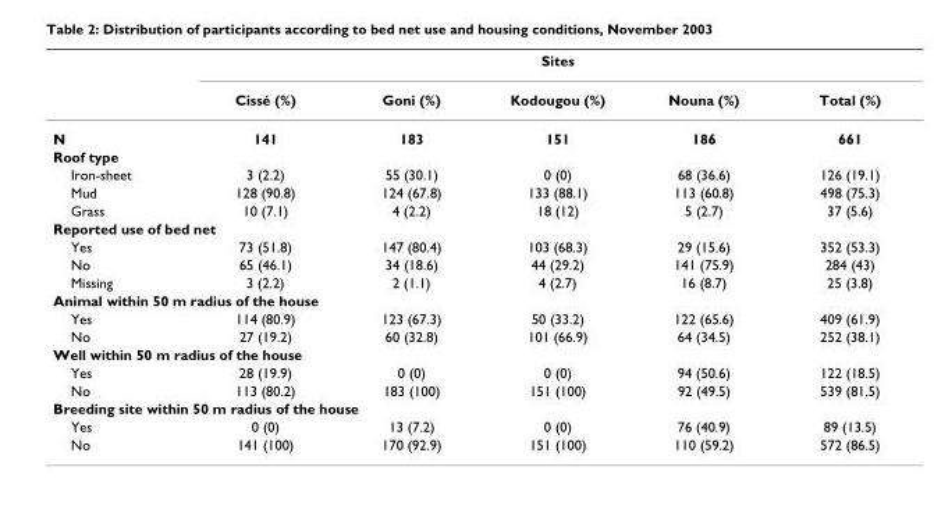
<table><thead><tr><td rowspan="2"></td><td colspan="5">Sites</td></tr><tr><td>Cissé (%)</td><td>Goni (%)</td><td>Kodougou (%)</td><td>Nouna (%)</td><td>Total (%)</td></tr></thead><tbody><tr><td>N</td><td>141</td><td>183</td><td>151</td><td>186</td><td>661</td></tr><tr><td colspan="6">Roof type</td></tr><tr><td>Iron-sheet</td><td>3 (2.2)</td><td>55 (30.1)</td><td>0 (0)</td><td>68 (36.6)</td><td>126 (19.1)</td></tr><tr><td>Mud</td><td>128 (90.8)</td><td>124 (67.8)</td><td>133 (88.1)</td><td>113 (60.8)</td><td>498 (75.3)</td></tr><tr><td>Grass</td><td>10 (7.1)</td><td>4 (2.2)</td><td>18 (12)</td><td>5 (2.7)</td><td>37 (5.6)</td></tr><tr><td colspan="6">Reported use of bed net</td></tr><tr><td>Yes</td><td>73 (51.8)</td><td>147 (80.4)</td><td>103 (68.3)</td><td>29 (15.6)</td><td>352 (53.3)</td></tr><tr><td>No</td><td>65 (46.1)</td><td>34 (18.6)</td><td>44 (29.2)</td><td>141 (75.9)</td><td>284 (43)</td></tr><tr><td>Missing</td><td>3 (2.2)</td><td>2 (1.1)</td><td>4 (2.7)</td><td>16 (8.7)</td><td>25 (3.8)</td></tr><tr><td colspan="6">Animal within 50 m radius of the house</td></tr><tr><td>Yes</td><td>114 (80.9)</td><td>123 (67.3)</td><td>50 (33.2)</td><td>122 (65.6)</td><td>409 (61.9)</td></tr><tr><td>No</td><td>27 (19.2)</td><td>60 (32.8)</td><td>101 (66.9)</td><td>64 (34.5)</td><td>252 (38.1)</td></tr><tr><td colspan="6">Well within 50 m radius of the house</td></tr><tr><td>Yes</td><td>28 (19.9)</td><td>0 (0)</td><td>0 (0)</td><td>94 (50.6)</td><td>122 (18.5)</td></tr><tr><td>No</td><td>113 (80.2)</td><td>183 (100)</td><td>151 (100)</td><td>92 (49.5)</td><td>539 (81.5)</td></tr><tr><td colspan="6">Breeding site within 50 m radius of the house</td></tr><tr><td>Yes</td><td>0 (0)</td><td>13 (7.2)</td><td>0 (0)</td><td>76 (40.9)</td><td>89 (13.5)</td></tr><tr><td>No</td><td>141 (100)</td><td>170 (92.9)</td><td>151 (100)</td><td>110 (59.2)</td><td>572 (86.5)</td></tr></tbody></table>